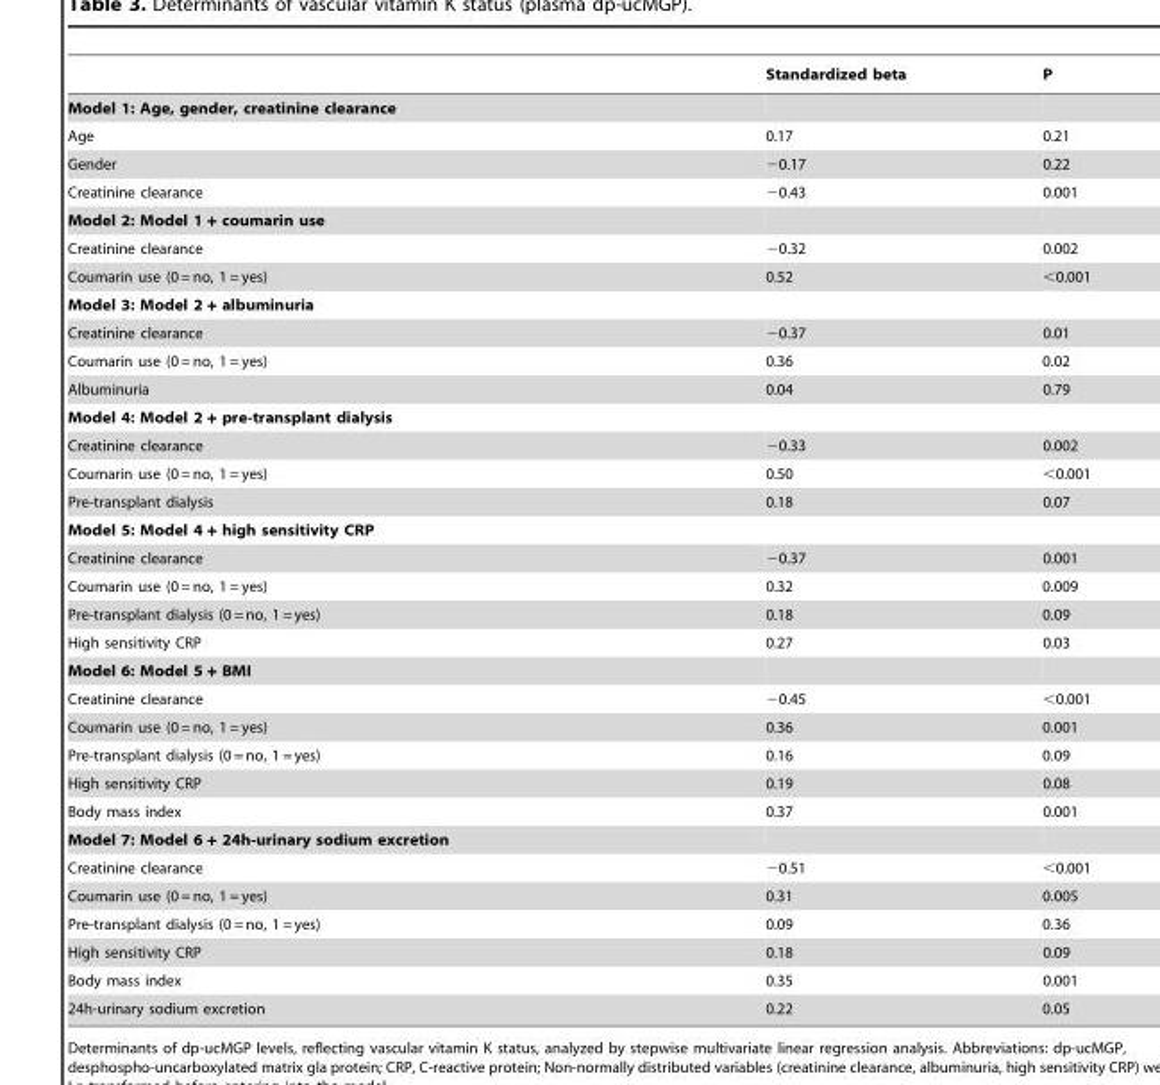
<table><thead><tr><td></td><td>Standardized beta</td><td>P</td></tr></thead><tbody><tr><td colspan="3">Model 1: Age, gender, creatinine clearance</td></tr><tr><td>Age</td><td>0.17</td><td>0.21</td></tr><tr><td>Gender</td><td>−0.17</td><td>0.22</td></tr><tr><td>Creatinine clearance</td><td>−0.43</td><td>0.001</td></tr><tr><td colspan="3">Model 2: Model 1 + coumarin use</td></tr><tr><td>Creatinine clearance</td><td>−0.32</td><td>0.002</td></tr><tr><td>Coumarin use (0 = no, 1 = yes)</td><td>0.52</td><td>&lt;0.001</td></tr><tr><td colspan="3">Model 3: Model 2 + albuminuria</td></tr><tr><td>Creatinine clearance</td><td>−0.37</td><td>0.01</td></tr><tr><td>Coumarin use (0 = no, 1 = yes)</td><td>0.36</td><td>0.02</td></tr><tr><td>Albuminuria</td><td>0.04</td><td>0.79</td></tr><tr><td colspan="3">Model 4: Model 2 + pre-transplant dialysis</td></tr><tr><td>Creatinine clearance</td><td>−0.33</td><td>0.002</td></tr><tr><td>Coumarin use (0 = no, 1 = yes)</td><td>0.50</td><td>&lt;0.001</td></tr><tr><td>Pre-transplant dialysis</td><td>0.18</td><td>0.07</td></tr><tr><td colspan="3">Model 5: Model 4 + high sensitivity CRP</td></tr><tr><td>Creatinine clearance</td><td>−0.37</td><td>0.001</td></tr><tr><td>Coumarin use (0 = no, 1 = yes)</td><td>0.32</td><td>0.009</td></tr><tr><td>Pre-transplant dialysis (0 = no, 1 = yes)</td><td>0.18</td><td>0.09</td></tr><tr><td>High sensitivity CRP</td><td>0.27</td><td>0.03</td></tr><tr><td colspan="3">Model 6: Model 5 + BMI</td></tr><tr><td>Creatinine clearance</td><td>−0.45</td><td>&lt;0.001</td></tr><tr><td>Coumarin use (0 = no, 1 = yes)</td><td>0.36</td><td>0.001</td></tr><tr><td>Pre-transplant dialysis (0 = no, 1 = yes)</td><td>0.16</td><td>0.09</td></tr><tr><td>High sensitivity CRP</td><td>0.19</td><td>0.08</td></tr><tr><td>Body mass index</td><td>0.37</td><td>0.001</td></tr><tr><td colspan="3">Model 7: Model 6 + 24h-urinary sodium excretion</td></tr><tr><td>Creatinine clearance</td><td>−0.51</td><td>&lt;0.001</td></tr><tr><td>Coumarin use (0 = no, 1 = yes)</td><td>0.31</td><td>0.005</td></tr><tr><td>Pre-transplant dialysis (0 = no, 1 = yes)</td><td>0.09</td><td>0.36</td></tr><tr><td>High sensitivity CRP</td><td>0.18</td><td>0.09</td></tr><tr><td>Body mass index</td><td>0.35</td><td>0.001</td></tr><tr><td>24h-urinary sodium excretion</td><td>0.22</td><td>0.05</td></tr></tbody></table>